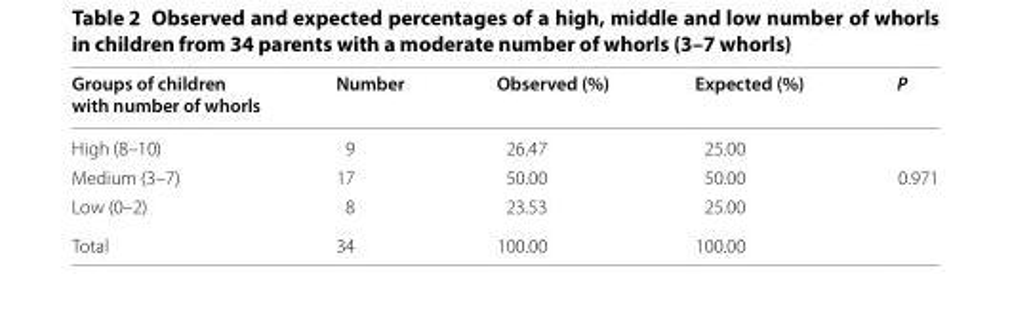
<table><thead><tr><td>Groups of children with number of whorls</td><td>Number</td><td>Observed (%)</td><td>Expected (%)</td><td>P</td></tr></thead><tbody><tr><td>High (8–10)</td><td>9</td><td>26.47</td><td>25.00</td><td></td></tr><tr><td>Medium (3–7)</td><td>17</td><td>50.00</td><td>50.00</td><td>0.971</td></tr><tr><td>Low (0–2)</td><td>8</td><td>23.53</td><td>25.00</td><td></td></tr><tr><td>Total</td><td>34</td><td>100.00</td><td>100.00</td><td></td></tr></tbody></table>